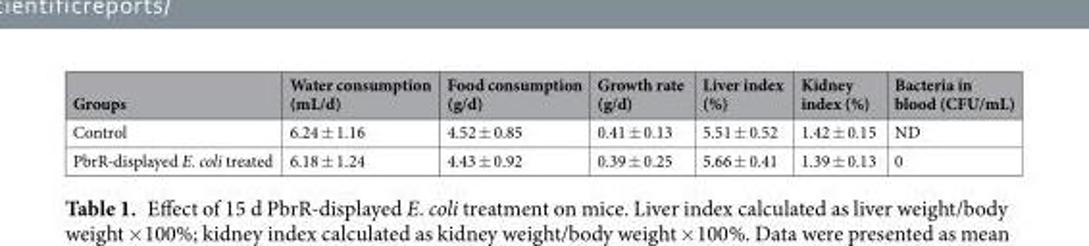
<table><thead><tr><td>Groups</td><td>Water consumption (mL/d)</td><td>Food consumption (g/d)</td><td>Growth rate (g/d)</td><td>Liver index (%)</td><td>Kidney index (%)</td><td>Bacteria in blood (CFU/mL)</td></tr></thead><tbody><tr><td>Control</td><td>6.24 ± 1.16</td><td>4.52 ± 0.85</td><td>0.41 ± 0.13</td><td>5.51 ± 0.52</td><td>1.42 ± 0.15</td><td>ND</td></tr><tr><td>PbrR-displayed E. coli treated</td><td>6.18 ± 1.24</td><td>4.43 ± 0.92</td><td>0.39 ± 0.25</td><td>5.66 ± 0.41</td><td>1.39 ± 0.13</td><td>0</td></tr></tbody></table>